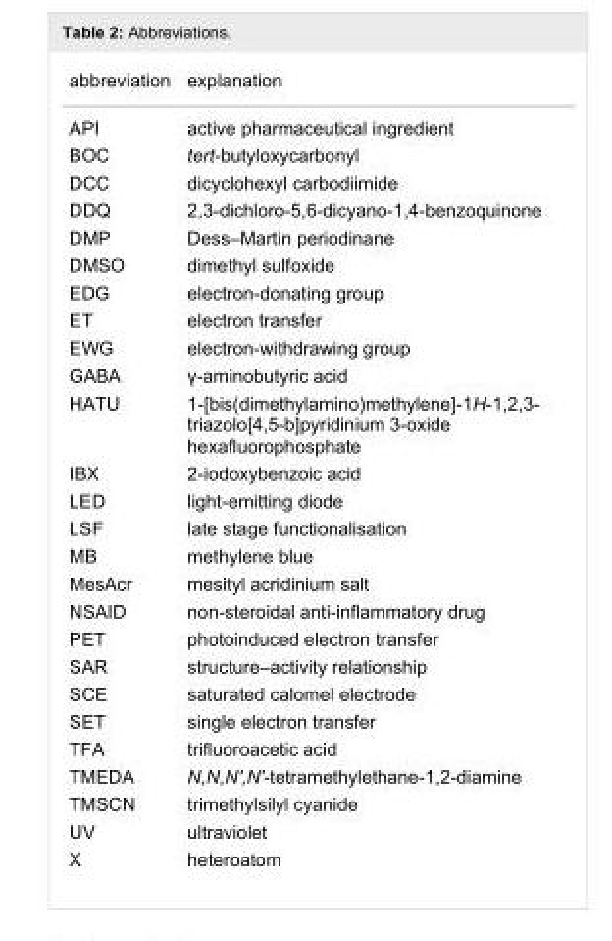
<table><tbody><tr><td>abbreviation</td><td>explanation</td></tr><tr><td>API</td><td>active pharmaceutical ingredient</td></tr><tr><td>BOC</td><td>tert-butyloxycarbonyl</td></tr><tr><td>DCC</td><td>dicyclohexyl carbodiimide</td></tr><tr><td>DDQ</td><td>2,3-dichloro-5,6-dicyano-1,4-benzoquinone</td></tr><tr><td>DMP</td><td>Dess–Martin periodinane</td></tr><tr><td>DMSO</td><td>dimethyl sulfoxide</td></tr><tr><td>EDG</td><td>electron-donating group</td></tr><tr><td>ET</td><td>electron transfer</td></tr><tr><td>EWG</td><td>electron-withdrawing group</td></tr><tr><td>GABA</td><td>γ-aminobutyric acid</td></tr><tr><td>HATU</td><td>1-[bis(dimethylamino)methylene]-1H-1,2,3- triazolo[4,5-b]pyridinium 3-oxide hexafluorophosphate</td></tr><tr><td>IBX</td><td>2-iodoxybenzoic acid</td></tr><tr><td>LED</td><td>light-emitting diode</td></tr><tr><td>LSF</td><td>late stage functionalisation</td></tr><tr><td>MB</td><td>methylene blue</td></tr><tr><td>MesAcr</td><td>mesityl acridinium salt</td></tr><tr><td>NSAID</td><td>non-steroidal anti-inflammatory drug</td></tr><tr><td>PET</td><td>photoinduced electron transfer</td></tr><tr><td>SAR</td><td>structure–activity relationship</td></tr><tr><td>SCE</td><td>saturated calomel electrode</td></tr><tr><td>SET</td><td>single electron transfer</td></tr><tr><td>TFA</td><td>trifluoroacetic acid</td></tr><tr><td>TMEDA</td><td>N,N,N′,N′-tetramethylethane-1,2-diamine</td></tr><tr><td>TMSCN</td><td>trimethylsilyl cyanide</td></tr><tr><td>UV</td><td>ultraviolet</td></tr><tr><td>X</td><td>heteroatom</td></tr></tbody></table>